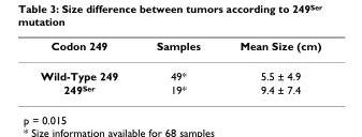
<table><thead><tr><td>Codon 249</td><td>Samples</td><td>Mean Size (cm)</td></tr></thead><tbody><tr><td>Wild-Type 249</td><td>49*</td><td>5.5 ± 4.9</td></tr><tr><td>249<sup>Ser</sup></td><td>19*</td><td>9.4 ± 7.4</td></tr></tbody></table>